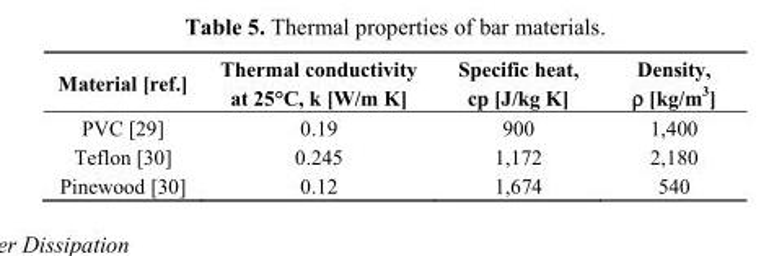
<table><thead><tr><td>Material [ref.]</td><td>Thermal conductivity at 25°C, k [W/m K]</td><td>Specific heat, cp [J/kg K]</td><td>Density, ρ [kg/m<sup>3</sup>]</td></tr></thead><tbody><tr><td>PVC [29]</td><td>0.19</td><td>900</td><td>1,400</td></tr><tr><td>Teflon [30]</td><td>0.245</td><td>1,172</td><td>2,180</td></tr><tr><td>Pinewood [30]</td><td>0.12</td><td>1,674</td><td>540</td></tr></tbody></table>